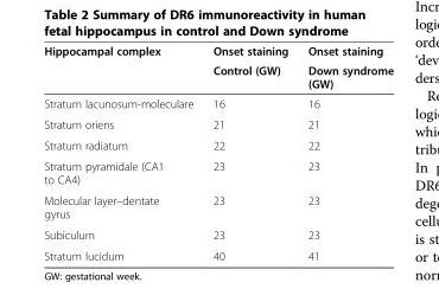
<table><thead><tr><td rowspan="2">Hippocampal complex</td><td rowspan="2">Onset staining Control (GW)</td><td rowspan="2">Onset staining Down syndrome (GW)</td></tr><tr></tr></thead><tbody><tr><td>Stratum lacunosum-moleculare</td><td>16</td><td>16</td></tr><tr><td>Stratum oriens</td><td>21</td><td>21</td></tr><tr><td>Stratum radiatum</td><td>22</td><td>22</td></tr><tr><td>Stratum pyramidale (CA1 to CA4)</td><td>23</td><td>23</td></tr><tr><td>Molecular layer–dentate gyrus</td><td>23</td><td>23</td></tr><tr><td>Subiculum</td><td>23</td><td>23</td></tr><tr><td>Stratum lucidum</td><td>40</td><td>41</td></tr></tbody></table>